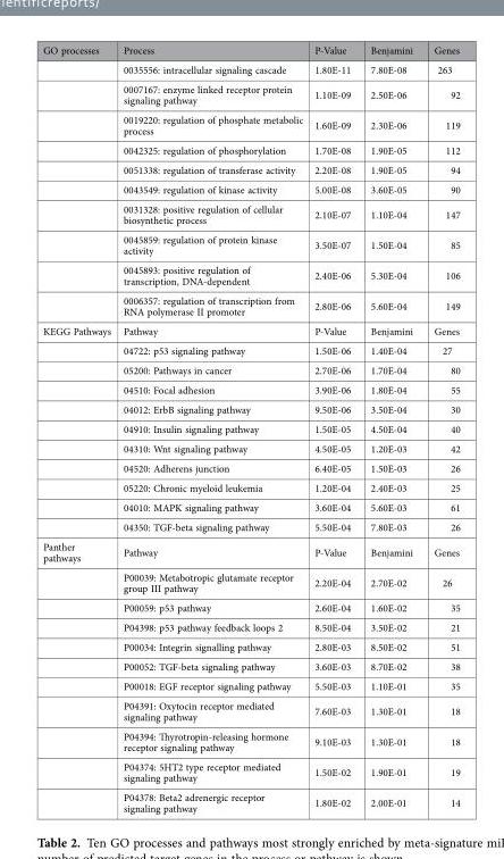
<table><thead><tr><td>GO processes</td><td>Process</td><td>P-Value</td><td>Benjamini</td><td>Genes</td></tr></thead><tbody><tr><td></td><td>0035556: intracellular signaling cascade</td><td>1.80E-11</td><td>7.80E-08</td><td>263</td></tr><tr><td></td><td>0007167: enzyme linked receptor protein signaling pathway</td><td>1.10E-09</td><td>2.50E-06</td><td>92</td></tr><tr><td></td><td>0019220: regulation of phosphate metabolic process</td><td>1.60E-09</td><td>2.30E-06</td><td>119</td></tr><tr><td></td><td>0042325: regulation of phosphorylation</td><td>1.70E-08</td><td>1.90E-05</td><td>112</td></tr><tr><td></td><td>0051338: regulation of transferase activity</td><td>2.20E-08</td><td>1.90E-05</td><td>94</td></tr><tr><td></td><td>0043549: regulation of kinase activity</td><td>5.00E-08</td><td>3.60E-05</td><td>90</td></tr><tr><td></td><td>0031328: positive regulation of cellular biosynthetic process</td><td>2.10E-07</td><td>1.10E-04</td><td>147</td></tr><tr><td></td><td>0045859: regulation of protein kinase activity</td><td>3.50E-07</td><td>1.50E-04</td><td>85</td></tr><tr><td></td><td>0045893: positive regulation of transcription, DNA-dependent</td><td>2.40E-06</td><td>5.30E-04</td><td>106</td></tr><tr><td></td><td>0006357: regulation of transcription from RNA polymerase II promoter</td><td>2.80E-06</td><td>5.60E-04</td><td>149</td></tr><tr><td rowspan="11">KEGG Pathways</td><td>Pathway</td><td>P-Value</td><td>Benjamini</td><td>Genes</td></tr><tr><td>04722: p53 signaling pathway</td><td>1.50E-06</td><td>1.40E-04</td><td>27</td></tr><tr><td>05200: Pathways in cancer</td><td>2.70E-06</td><td>1.70E-04</td><td>80</td></tr><tr><td>04510: Focal adhesion</td><td>3.90E-06</td><td>1.80E-04</td><td>55</td></tr><tr><td>04012: ErbB signaling pathway</td><td>9.50E-06</td><td>3.50E-04</td><td>30</td></tr><tr><td>04910: Insulin signaling pathway</td><td>1.50E-05</td><td>4.50E-04</td><td>40</td></tr><tr><td>04310: Wnt signaling pathway</td><td>4.50E-05</td><td>1.20E-03</td><td>42</td></tr><tr><td>04520: Adherens junction</td><td>6.40E-05</td><td>1.50E-03</td><td>26</td></tr><tr><td>05220: Chronic myeloid leukemia</td><td>1.20E-04</td><td>2.40E-03</td><td>25</td></tr><tr><td>04010: MAPK signaling pathway</td><td>3.60E-04</td><td>5.60E-03</td><td>61</td></tr><tr><td>04350: TGF-beta signaling pathway</td><td>5.50E-04</td><td>7.80E-03</td><td>26</td></tr><tr><td rowspan="11">Panther pathways</td><td>Pathway</td><td>P-Value</td><td>Benjamini</td><td>Genes</td></tr><tr><td>P00039: Metabotropic glutamate receptor group III pathway</td><td>2.20E-04</td><td>2.70E-02</td><td>26</td></tr><tr><td>P00059: p53 pathway</td><td>2.60E-04</td><td>1.60E-02</td><td>35</td></tr><tr><td>P04398: p53 pathway feedback loops 2</td><td>8.50E-04</td><td>3.50E-02</td><td>21</td></tr><tr><td>P00034: Integrin signalling pathway</td><td>2.80E-03</td><td>8.50E-02</td><td>51</td></tr><tr><td>P00052: TGF-beta signaling pathway</td><td>3.60E-03</td><td>8.70E-02</td><td>38</td></tr><tr><td>P00018: EGF receptor signaling pathway</td><td>5.50E-03</td><td>1.10E-01</td><td>35</td></tr><tr><td>P04391: Oxytocin receptor mediated signaling pathway</td><td>7.60E-03</td><td>1.30E-01</td><td>18</td></tr><tr><td>P04394: Thyrotropin-releasing hormone receptor signaling pathway</td><td>9.10E-03</td><td>1.30E-01</td><td>18</td></tr><tr><td>P04374: 5HT2 type receptor mediated signaling pathway</td><td>1.50E-02</td><td>1.90E-01</td><td>19</td></tr><tr><td>P04378: Beta2 adrenergic receptor signaling pathway</td><td>1.80E-02</td><td>2.00E-01</td><td>14</td></tr></tbody></table>